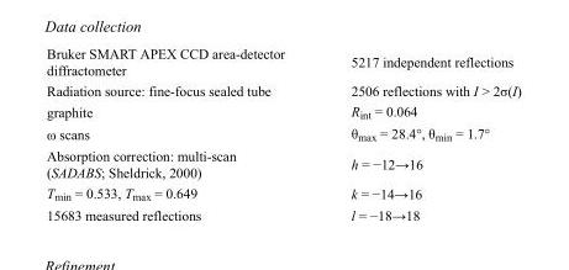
<table><tbody><tr><td>Bruker SMART APEX CCD area-detector diffractometer</td><td>5217 independent reflections</td></tr><tr><td>Radiation source: fine-focus sealed tube</td><td>2506 reflections with I &gt; 2σ(I)</td></tr><tr><td>graphite</td><td>R<sub>int</sub> = 0.064</td></tr><tr><td>ω scans</td><td>θ<sub>max</sub> = 28.4°, θ<sub>min</sub> = 1.7°</td></tr><tr><td>Absorption correction: multi-scan (SADABS; Sheldrick, 2000)</td><td>h = −12→16</td></tr><tr><td>T<sub>min</sub> = 0.533, T<sub>max</sub> = 0.649</td><td>k = −14→16</td></tr><tr><td>15683 measured reflections</td><td>l = −18→18</td></tr></tbody></table>